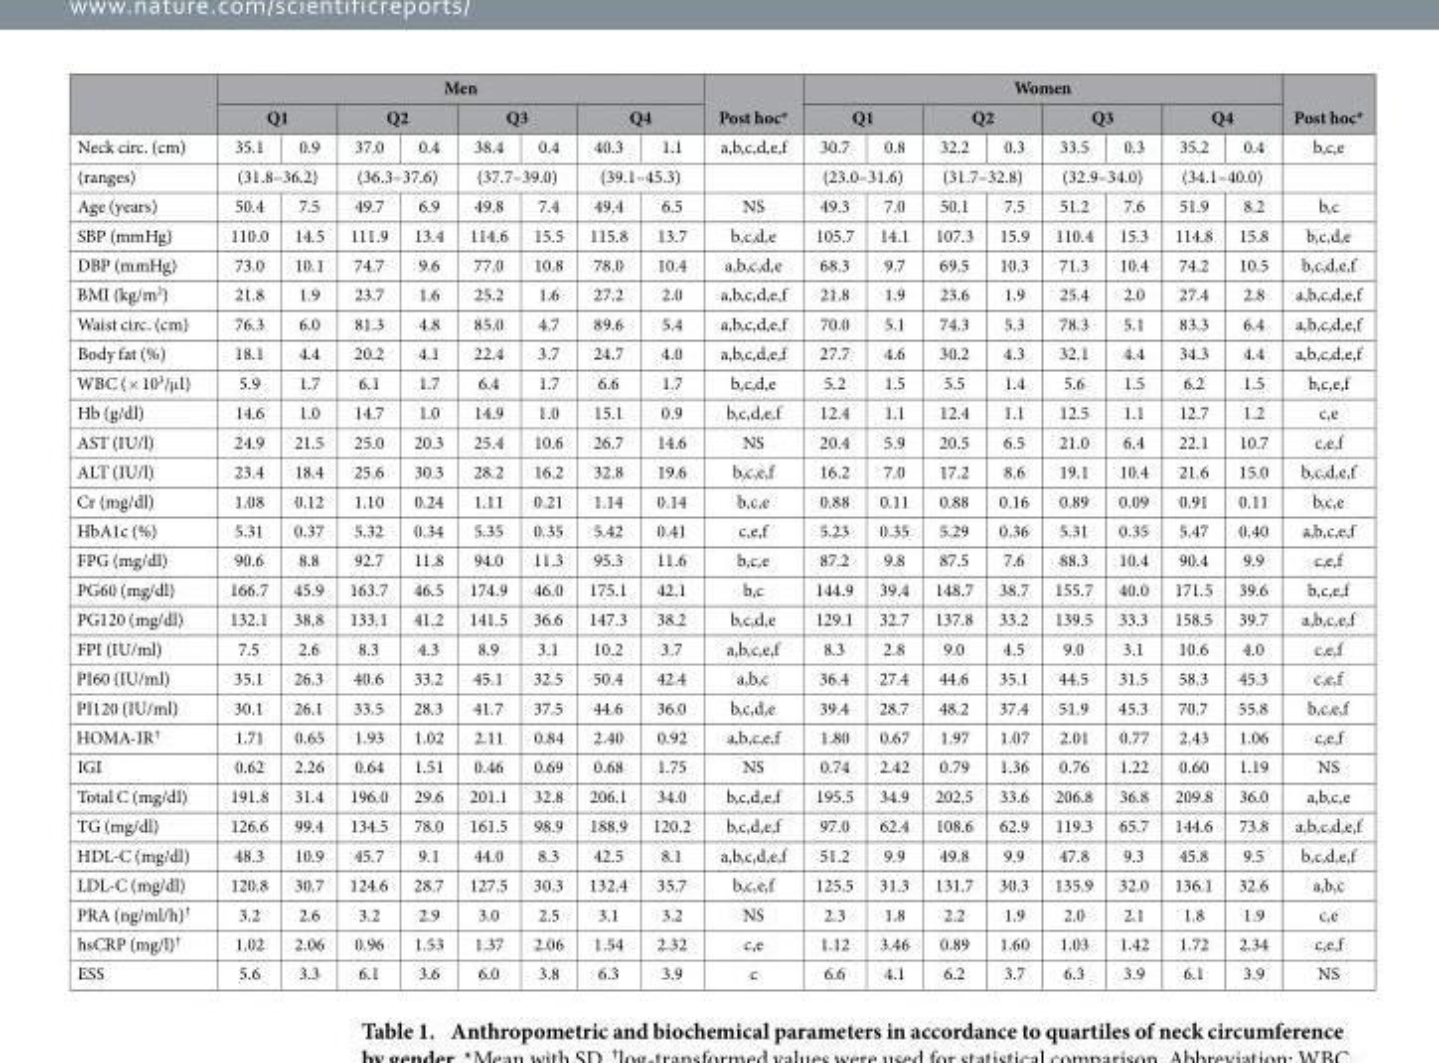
<table><thead><tr><td rowspan="3">Neck circ. (cm)</td><td colspan="8">Men</td><td rowspan="3">Post hoc* a,b,c,d,e,f</td><td colspan="8">Women</td><td rowspan="3">Post hoc* b,c,e</td></tr><tr><td colspan="2">Q1</td><td colspan="2">Q2</td><td colspan="2">Q3</td><td colspan="2">Q4</td><td colspan="2">Q1</td><td colspan="2">Q2</td><td colspan="2">Q3</td><td colspan="2">Q4</td></tr><tr><td>35.1</td><td>0.9</td><td>37.0</td><td>0.4</td><td>38.4</td><td>0.4</td><td>40.3</td><td>1.1</td><td>30.7</td><td>0.8</td><td>32.2</td><td>0.3</td><td>33.5</td><td>0.3</td><td>35.2</td><td>0.4</td></tr></thead><tbody><tr><td>(ranges)</td><td colspan="2">(31.8–36.2)</td><td colspan="2">(36.3–37.6)</td><td colspan="2">(37.7–39.0)</td><td colspan="2">(39.1–45.3)</td><td></td><td colspan="2">(23.0–31.6)</td><td colspan="2">(31.7–32.8)</td><td colspan="2">(32.9–34.0)</td><td colspan="2">(34.1–40.0)</td><td></td></tr><tr><td>Age (years)</td><td>50.4</td><td>7.5</td><td>49.7</td><td>6.9</td><td>49.8</td><td>7.4</td><td>49.4</td><td>6.5</td><td>NS</td><td>49.3</td><td>7.0</td><td>50.1</td><td>7.5</td><td>51.2</td><td>7.6</td><td>51.9</td><td>8.2</td><td>b,c</td></tr><tr><td>SBP (mmHg)</td><td>110.0</td><td>14.5</td><td>111.9</td><td>13.4</td><td>114.6</td><td>15.5</td><td>115.8</td><td>13.7</td><td>b,c,d,e</td><td>105.7</td><td>14.1</td><td>107.3</td><td>15.9</td><td>110.4</td><td>15.3</td><td>114.8</td><td>15.8</td><td>b,c,d,e</td></tr><tr><td>DBP (mmHg)</td><td>73.0</td><td>10.1</td><td>74.7</td><td>9.6</td><td>77.0</td><td>10.8</td><td>78.0</td><td>10.4</td><td>a,b,c,d,e</td><td>68.3</td><td>9.7</td><td>69.5</td><td>10.3</td><td>71.3</td><td>10.4</td><td>74.2</td><td>10.5</td><td>b,c,d,e,f</td></tr><tr><td>BMI (kg/m<sup>2</sup>)</td><td>21.8</td><td>1.9</td><td>23.7</td><td>1.6</td><td>25.2</td><td>1.6</td><td>27.2</td><td>2.0</td><td>a,b,c,d,e,f</td><td>21.8</td><td>1.9</td><td>23.6</td><td>1.9</td><td>25.4</td><td>2.0</td><td>27.4</td><td>2.8</td><td>a,b,c,d,e,f</td></tr><tr><td>Waist circ. (cm)</td><td>76.3</td><td>6.0</td><td>81.3</td><td>4.8</td><td>85.0</td><td>4.7</td><td>89.6</td><td>5.4</td><td>a,b,c,d,e,f</td><td>70.0</td><td>5.1</td><td>74.3</td><td>5.3</td><td>78.3</td><td>5.1</td><td>83.3</td><td>6.4</td><td>a,b,c,d,e,f</td></tr><tr><td>Body fat (%)</td><td>18.1</td><td>4.4</td><td>20.2</td><td>4.1</td><td>22.4</td><td>3.7</td><td>24.7</td><td>4.0</td><td>a,b,c,d,e,f</td><td>27.7</td><td>4.6</td><td>30.2</td><td>4.3</td><td>32.1</td><td>4.4</td><td>34.3</td><td>4.4</td><td>a,b,c,d,e,f</td></tr><tr><td>WBC (× 10<sup>3</sup>/μ l)</td><td>5.9</td><td>1.7</td><td>6.1</td><td>1.7</td><td>6.4</td><td>1.7</td><td>6.6</td><td>1.7</td><td>b,c,d,e</td><td>5.2</td><td>1.5</td><td>5.5</td><td>1.4</td><td>5.6</td><td>1.5</td><td>6.2</td><td>1.5</td><td>b,c,e,f</td></tr><tr><td>Hb (g/dl)</td><td>14.6</td><td>1.0</td><td>14.7</td><td>1.0</td><td>14.9</td><td>1.0</td><td>15.1</td><td>0.9</td><td>b,c,d,e,f</td><td>12.4</td><td>1.1</td><td>12.4</td><td>1.1</td><td>12.5</td><td>1.1</td><td>12.7</td><td>1.2</td><td>c,e</td></tr><tr><td>AST (IU/l)</td><td>24.9</td><td>21.5</td><td>25.0</td><td>20.3</td><td>25.4</td><td>10.6</td><td>26.7</td><td>14.6</td><td>NS</td><td>20.4</td><td>5.9</td><td>20.5</td><td>6.5</td><td>21.0</td><td>6.4</td><td>22.1</td><td>10.7</td><td>c,e,f</td></tr><tr><td>ALT (IU/l)</td><td>23.4</td><td>18.4</td><td>25.6</td><td>30.3</td><td>28.2</td><td>16.2</td><td>32.8</td><td>19.6</td><td>b,c,e,f</td><td>16.2</td><td>7.0</td><td>17.2</td><td>8.6</td><td>19.1</td><td>10.4</td><td>21.6</td><td>15.0</td><td>b,c,d,e,f</td></tr><tr><td>Cr (mg/dl)</td><td>1.08</td><td>0.12</td><td>1.10</td><td>0.24</td><td>1.11</td><td>0.21</td><td>1.14</td><td>0.14</td><td>b,c,e</td><td>0.88</td><td>0.11</td><td>0.88</td><td>0.16</td><td>0.89</td><td>0.09</td><td>0.91</td><td>0.11</td><td>b,c,e</td></tr><tr><td>HbA1c (%)</td><td>5.31</td><td>0.37</td><td>5.32</td><td>0.34</td><td>5.35</td><td>0.35</td><td>5.42</td><td>0.41</td><td>c,e,f</td><td>5.23</td><td>0.35</td><td>5.29</td><td>0.36</td><td>5.31</td><td>0.35</td><td>5.47</td><td>0.40</td><td>a,b,c,e,f</td></tr><tr><td>FPG (mg/dl)</td><td>90.6</td><td>8.8</td><td>92.7</td><td>11.8</td><td>94.0</td><td>11.3</td><td>95.3</td><td>11.6</td><td>b,c,e</td><td>87.2</td><td>9.8</td><td>87.5</td><td>7.6</td><td>88.3</td><td>10.4</td><td>90.4</td><td>9.9</td><td>c,e,f</td></tr><tr><td>PG60 (mg/dl)</td><td>166.7</td><td>45.9</td><td>163.7</td><td>46.5</td><td>174.9</td><td>46.0</td><td>175.1</td><td>42.1</td><td>b,c</td><td>144.9</td><td>39.4</td><td>148.7</td><td>38.7</td><td>155.7</td><td>40.0</td><td>171.5</td><td>39.6</td><td>b,c,e,f</td></tr><tr><td>PG120 (mg/dl)</td><td>132.1</td><td>38.8</td><td>133.1</td><td>41.2</td><td>141.5</td><td>36.6</td><td>147.3</td><td>38.2</td><td>b,c,d,e</td><td>129.1</td><td>32.7</td><td>137.8</td><td>33.2</td><td>139.5</td><td>33.3</td><td>158.5</td><td>39.7</td><td>a,b,c,e,f</td></tr><tr><td>FPI (IU/ml)</td><td>7.5</td><td>2.6</td><td>8.3</td><td>4.3</td><td>8.9</td><td>3.1</td><td>10.2</td><td>3.7</td><td>a,b,c,e,f</td><td>8.3</td><td>2.8</td><td>9.0</td><td>4.5</td><td>9.0</td><td>3.1</td><td>10.6</td><td>4.0</td><td>c,e,f</td></tr><tr><td>PI60 (IU/ml)</td><td>35.1</td><td>26.3</td><td>40.6</td><td>33.2</td><td>45.1</td><td>32.5</td><td>50.4</td><td>42.4</td><td>a,b,c</td><td>36.4</td><td>27.4</td><td>44.6</td><td>35.1</td><td>44.5</td><td>31.5</td><td>58.3</td><td>45.3</td><td>c,e,f</td></tr><tr><td>PI120 (IU/ml)</td><td>30.1</td><td>26.1</td><td>33.5</td><td>28.3</td><td>41.7</td><td>37.5</td><td>44.6</td><td>36.0</td><td>b,c,d,e</td><td>39.4</td><td>28.7</td><td>48.2</td><td>37.4</td><td>51.9</td><td>45.3</td><td>70.7</td><td>55.8</td><td>b,c,e,f</td></tr><tr><td>HOMA-IR<sup>†</sup></td><td>1.71</td><td>0.65</td><td>1.93</td><td>1.02</td><td>2.11</td><td>0.84</td><td>2.40</td><td>0.92</td><td>a,b,c,e,f</td><td>1.80</td><td>0.67</td><td>1.97</td><td>1.07</td><td>2.01</td><td>0.77</td><td>2.43</td><td>1.06</td><td>c,e,f</td></tr><tr><td>IGI</td><td>0.62</td><td>2.26</td><td>0.64</td><td>1.51</td><td>0.46</td><td>0.69</td><td>0.68</td><td>1.75</td><td>NS</td><td>0.74</td><td>2.42</td><td>0.79</td><td>1.36</td><td>0.76</td><td>1.22</td><td>0.60</td><td>1.19</td><td>NS</td></tr><tr><td>Total C (mg/dl)</td><td>191.8</td><td>31.4</td><td>196.0</td><td>29.6</td><td>201.1</td><td>32.8</td><td>206.1</td><td>34.0</td><td>b,c,d,e,f</td><td>195.5</td><td>34.9</td><td>202.5</td><td>33.6</td><td>206.8</td><td>36.8</td><td>209.8</td><td>36.0</td><td>a,b,c,e</td></tr><tr><td>TG (mg/dl)</td><td>126.6</td><td>99.4</td><td>134.5</td><td>78.0</td><td>161.5</td><td>98.9</td><td>188.9</td><td>120.2</td><td>b,c,d,e,f</td><td>97.0</td><td>62.4</td><td>108.6</td><td>62.9</td><td>119.3</td><td>65.7</td><td>144.6</td><td>73.8</td><td>a,b,c,d,e,f</td></tr><tr><td>HDL-C (mg/dl)</td><td>48.3</td><td>10.9</td><td>45.7</td><td>9.1</td><td>44.0</td><td>8.3</td><td>42.5</td><td>8.1</td><td>a,b,c,d,e,f</td><td>51.2</td><td>9.9</td><td>49.8</td><td>9.9</td><td>47.8</td><td>9.3</td><td>45.8</td><td>9.5</td><td>b,c,d,e,f</td></tr><tr><td>LDL-C (mg/dl)</td><td>120.8</td><td>30.7</td><td>124.6</td><td>28.7</td><td>127.5</td><td>30.3</td><td>132.4</td><td>35.7</td><td>b,c,e,f</td><td>125.5</td><td>31.3</td><td>131.7</td><td>30.3</td><td>135.9</td><td>32.0</td><td>136.1</td><td>32.6</td><td>a,b,c</td></tr><tr><td>PRA (ng/ml/h)<sup>†</sup></td><td>3.2</td><td>2.6</td><td>3.2</td><td>2.9</td><td>3.0</td><td>2.5</td><td>3.1</td><td>3.2</td><td>NS</td><td>2.3</td><td>1.8</td><td>2.2</td><td>1.9</td><td>2.0</td><td>2.1</td><td>1.8</td><td>1.9</td><td>c,e</td></tr><tr><td>hsCRP (mg/l)<sup>†</sup></td><td>1.02</td><td>2.06</td><td>0.96</td><td>1.53</td><td>1.37</td><td>2.06</td><td>1.54</td><td>2.32</td><td>c,e</td><td>1.12</td><td>3.46</td><td>0.89</td><td>1.60</td><td>1.03</td><td>1.42</td><td>1.72</td><td>2.34</td><td>c,e,f</td></tr><tr><td>ESS</td><td>5.6</td><td>3.3</td><td>6.1</td><td>3.6</td><td>6.0</td><td>3.8</td><td>6.3</td><td>3.9</td><td>c</td><td>6.6</td><td>4.1</td><td>6.2</td><td>3.7</td><td>6.3</td><td>3.9</td><td>6.1</td><td>3.9</td><td>NS</td></tr></tbody></table>